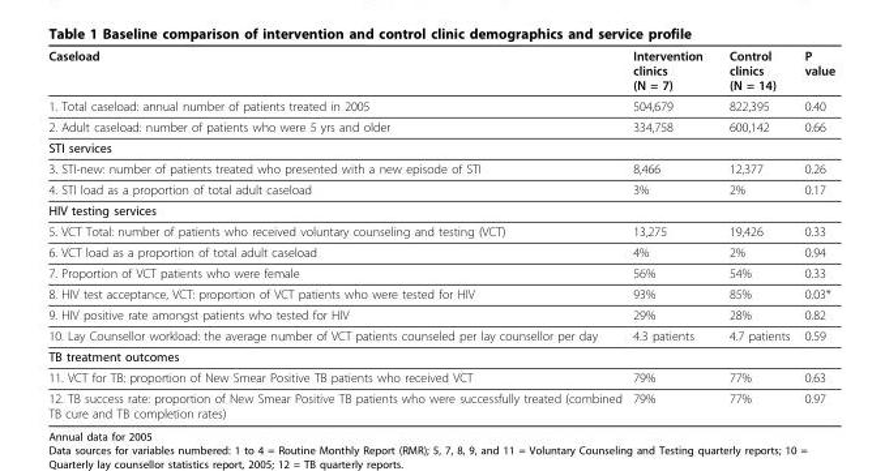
<table><thead><tr><td>Caseload</td><td>Intervention clinics (N = 7)</td><td>Control clinics (N = 14)</td><td>P value</td></tr></thead><tbody><tr><td>1. Total caseload: annual number of patients treated in 2005</td><td>504,679</td><td>822,395</td><td>0.40</td></tr><tr><td>2. Adult caseload: number of patients who were 5 yrs and older</td><td>334,758</td><td>600,142</td><td>0.66</td></tr><tr><td colspan="4">STI services</td></tr><tr><td>3. STI-new: number of patients treated who presented with a new episode of STI</td><td>8,466</td><td>12,377</td><td>0.26</td></tr><tr><td>4. STI load as a proportion of total adult caseload</td><td>3%</td><td>2%</td><td>0.17</td></tr><tr><td colspan="4">HIV testing services</td></tr><tr><td>5. VCT Total: number of patients who received voluntary counseling and testing (VCT)</td><td>13,275</td><td>19,426</td><td>0.33</td></tr><tr><td>6. VCT load as a proportion of total adult caseload</td><td>4%</td><td>2%</td><td>0.94</td></tr><tr><td>7. Proportion of VCT patients who were female</td><td>56%</td><td>54%</td><td>0.33</td></tr><tr><td>8. HIV test acceptance, VCT: proportion of VCT patients who were tested for HIV</td><td>93%</td><td>85%</td><td>0.03*</td></tr><tr><td>9. HIV positive rate amongst patients who tested for HIV</td><td>29%</td><td>28%</td><td>0.82</td></tr><tr><td>10. Lay Counsellor workload: the average number of VCT patients counseled per lay counsellor per day</td><td>4.3 patients</td><td>4.7 patients</td><td>0.59</td></tr><tr><td colspan="4">TB treatment outcomes</td></tr><tr><td>11. VCT for TB: proportion of New Smear Positive TB patients who received VCT</td><td>79%</td><td>77%</td><td>0.63</td></tr><tr><td>12. TB success rate: proportion of New Smear Positive TB patients who were successfully treated (combined TB cure and TB completion rates)</td><td>79%</td><td>77%</td><td>0.97</td></tr></tbody></table>